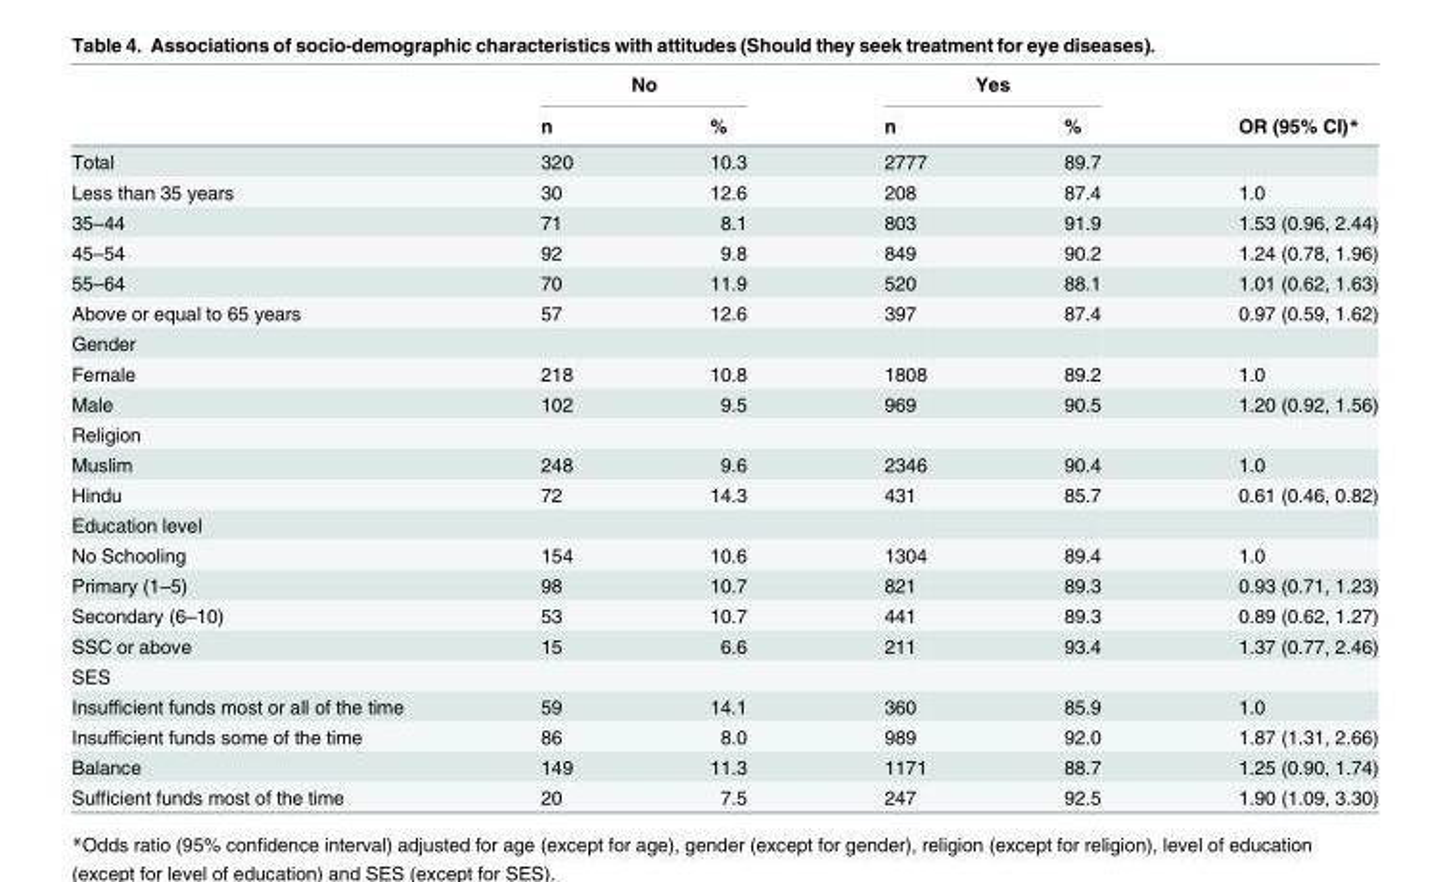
<table><thead><tr><td rowspan="2"></td><td colspan="2">No</td><td colspan="2">Yes</td><td rowspan="2">OR (95% CI)*</td></tr><tr><td>n</td><td>%</td><td>n</td><td>%</td></tr></thead><tbody><tr><td>Total</td><td>320</td><td>10.3</td><td>2777</td><td>89.7</td><td></td></tr><tr><td>Less than 35 years</td><td>30</td><td>12.6</td><td>208</td><td>87.4</td><td>1.0</td></tr><tr><td>35–44</td><td>71</td><td>8.1</td><td>803</td><td>91.9</td><td>1.53 (0.96, 2.44)</td></tr><tr><td>45–54</td><td>92</td><td>9.8</td><td>849</td><td>90.2</td><td>1.24 (0.78, 1.96)</td></tr><tr><td>55–64</td><td>70</td><td>11.9</td><td>520</td><td>88.1</td><td>1.01 (0.62, 1.63)</td></tr><tr><td>Above or equal to 65 years</td><td>57</td><td>12.6</td><td>397</td><td>87.4</td><td>0.97 (0.59, 1.62)</td></tr><tr><td colspan="6">Gender</td></tr><tr><td>Female</td><td>218</td><td>10.8</td><td>1808</td><td>89.2</td><td>1.0</td></tr><tr><td>Male</td><td>102</td><td>9.5</td><td>969</td><td>90.5</td><td>1.20 (0.92, 1.56)</td></tr><tr><td colspan="6">Religion</td></tr><tr><td>Muslim</td><td>248</td><td>9.6</td><td>2346</td><td>90.4</td><td>1.0</td></tr><tr><td>Hindu</td><td>72</td><td>14.3</td><td>431</td><td>85.7</td><td>0.61 (0.46, 0.82)</td></tr><tr><td colspan="6">Education level</td></tr><tr><td>No Schooling</td><td>154</td><td>10.6</td><td>1304</td><td>89.4</td><td>1.0</td></tr><tr><td>Primary (1–5)</td><td>98</td><td>10.7</td><td>821</td><td>89.3</td><td>0.93 (0.71, 1.23)</td></tr><tr><td>Secondary (6–10)</td><td>53</td><td>10.7</td><td>441</td><td>89.3</td><td>0.89 (0.62, 1.27)</td></tr><tr><td>SSC or above</td><td>15</td><td>6.6</td><td>211</td><td>93.4</td><td>1.37 (0.77, 2.46)</td></tr><tr><td colspan="6">SES</td></tr><tr><td>Insufficient funds most or all of the time</td><td>59</td><td>14.1</td><td>360</td><td>85.9</td><td>1.0</td></tr><tr><td>Insufficient funds some of the time</td><td>86</td><td>8.0</td><td>989</td><td>92.0</td><td>1.87 (1.31, 2.66)</td></tr><tr><td>Balance</td><td>149</td><td>11.3</td><td>1171</td><td>88.7</td><td>1.25 (0.90, 1.74)</td></tr><tr><td>Sufficient funds most of the time</td><td>20</td><td>7.5</td><td>247</td><td>92.5</td><td>1.90 (1.09, 3.30)</td></tr></tbody></table>